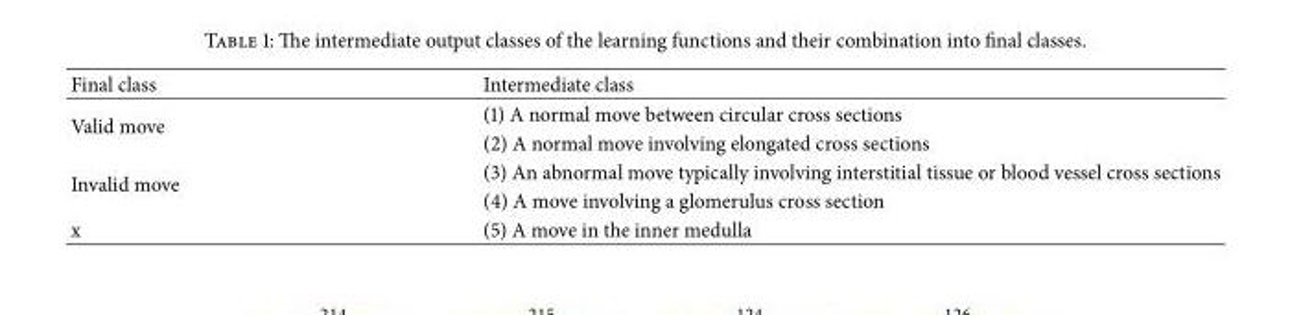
<table><thead><tr><td>Final class</td><td>Intermediate class</td></tr></thead><tbody><tr><td rowspan="2">Valid move</td><td>(1) A normal move between circular cross sections</td></tr><tr><td>(2) A normal move involving elongated cross sections</td></tr><tr><td rowspan="2">Invalid move</td><td>(3) An abnormal move typically involving interstitial tissue or blood vessel cross sections</td></tr><tr><td>(4) A move involving a glomerulus cross section</td></tr><tr><td>x</td><td>(5) A move in the inner medulla</td></tr></tbody></table>